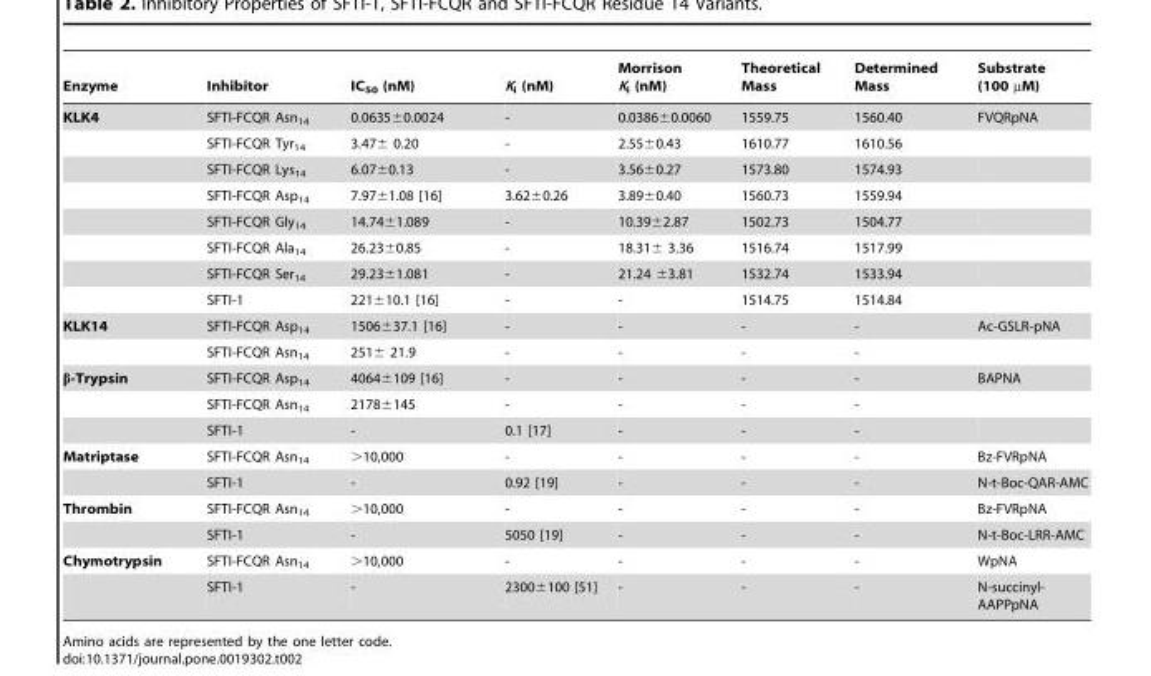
<table><thead><tr><td>Enzyme</td><td>Inhibitor</td><td>IC<sub>50</sub> (nM)</td><td>K<sub>i</sub> (nM)</td><td>Morrison K<sub>i</sub> (nM)</td><td>Theoretical Mass</td><td>Determined Mass</td><td>Substrate (100 µM)</td></tr></thead><tbody><tr><td rowspan="8">KLK4</td><td>SFTI-FCQR Asn<sub>14</sub></td><td>0.0635±0.0024</td><td>-</td><td>0.0386±0.0060</td><td>1559.75</td><td>1560.40</td><td>FVQRpNA</td></tr><tr><td>SFTI-FCQR Tyr<sub>14</sub></td><td>3.47± 0.20</td><td>-</td><td>2.55±0.43</td><td>1610.77</td><td>1610.56</td><td></td></tr><tr><td>SFTI-FCQR Lys<sub>14</sub></td><td>6.07±0.13</td><td>-</td><td>3.56±0.27</td><td>1573.80</td><td>1574.93</td><td></td></tr><tr><td>SFTI-FCQR Asp<sub>14</sub></td><td>7.97±1.08 [16]</td><td>3.62±0.26</td><td>3.89±0.40</td><td>1560.73</td><td>1559.94</td><td></td></tr><tr><td>SFTI-FCQR Gly<sub>14</sub></td><td>14.74±1.089</td><td>-</td><td>10.39±2.87</td><td>1502.73</td><td>1504.77</td><td></td></tr><tr><td>SFTI-FCQR Ala<sub>14</sub></td><td>26.23±0.85</td><td>-</td><td>18.31± 3.36</td><td>1516.74</td><td>1517.99</td><td></td></tr><tr><td>SFTI-FCQR Ser<sub>14</sub></td><td>29.23±1.081</td><td>-</td><td>21.24 ±3.81</td><td>1532.74</td><td>1533.94</td><td></td></tr><tr><td>SFTI-1</td><td>221±10.1 [16]</td><td>-</td><td>-</td><td>1514.75</td><td>1514.84</td><td></td></tr><tr><td rowspan="2">KLK14</td><td>SFTI-FCQR Asp<sub>14</sub></td><td>1506±37.1 [16]</td><td>-</td><td>-</td><td>-</td><td>-</td><td>Ac-GSLR-pNA</td></tr><tr><td>SFTI-FCQR Asn<sub>14</sub></td><td>251± 21.9</td><td>-</td><td>-</td><td>-</td><td>-</td><td></td></tr><tr><td rowspan="3">β-Trypsin</td><td>SFTI-FCQR Asp<sub>14</sub></td><td>4064±109 [16]</td><td>-</td><td>-</td><td>-</td><td>-</td><td>BAPNA</td></tr><tr><td>SFTI-FCQR Asn<sub>14</sub></td><td>2178±145</td><td>-</td><td>-</td><td>-</td><td>-</td><td></td></tr><tr><td>SFTI-1</td><td>-</td><td>0.1 [17]</td><td>-</td><td>-</td><td>-</td><td></td></tr><tr><td rowspan="2">Matriptase</td><td>SFTI-FCQR Asn<sub>14</sub></td><td>&gt;10,000</td><td>-</td><td>-</td><td>-</td><td>-</td><td>Bz-FVRpNA</td></tr><tr><td>SFTI-1</td><td>-</td><td>0.92 [19]</td><td>-</td><td>-</td><td>-</td><td>N-t-Boc-QAR-AMC</td></tr><tr><td rowspan="2">Thrombin</td><td>SFTI-FCQR Asn<sub>14</sub></td><td>&gt;10,000</td><td>-</td><td>-</td><td>-</td><td>-</td><td>Bz-FVRpNA</td></tr><tr><td>SFTI-1</td><td>-</td><td>5050 [19]</td><td>-</td><td>-</td><td>-</td><td>N-t-Boc-LRR-AMC</td></tr><tr><td rowspan="2">Chymotrypsin</td><td>SFTI-FCQR Asn<sub>14</sub></td><td>&gt;10,000</td><td>-</td><td>-</td><td>-</td><td>-</td><td>WpNA</td></tr><tr><td>SFTI-1</td><td>-</td><td>2300±100 [51]</td><td>-</td><td>-</td><td>-</td><td>N-succinyl- AAPPpNA</td></tr></tbody></table>